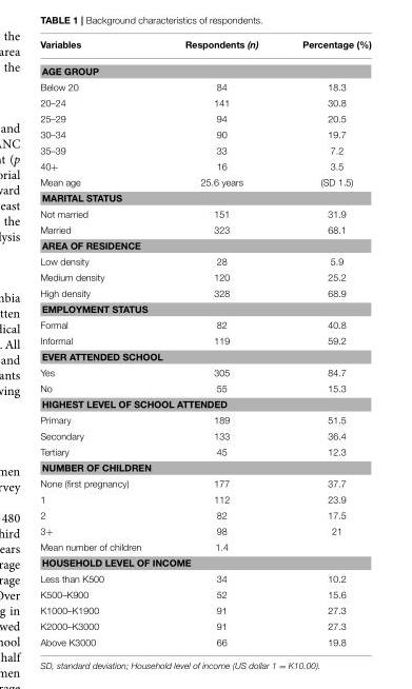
<table><thead><tr><td>Variables</td><td>Respondents (n)</td><td>Percentage (%)</td></tr></thead><tbody><tr><td colspan="3">AGE GROUP</td></tr><tr><td>Below 20</td><td>84</td><td>18.3</td></tr><tr><td>20–24</td><td>141</td><td>30.8</td></tr><tr><td>25–29</td><td>94</td><td>20.5</td></tr><tr><td>30–34</td><td>90</td><td>19.7</td></tr><tr><td>35–39</td><td>33</td><td>7.2</td></tr><tr><td>40+</td><td>16</td><td>3.5</td></tr><tr><td>Mean age</td><td>25.6 years</td><td>(SD 1.5)</td></tr><tr><td colspan="3">MARITAL STATUS</td></tr><tr><td>Not married</td><td>151</td><td>31.9</td></tr><tr><td>Married</td><td>323</td><td>68.1</td></tr><tr><td colspan="3">AREA OF RESIDENCE</td></tr><tr><td>Low density</td><td>28</td><td>5.9</td></tr><tr><td>Medium density</td><td>120</td><td>25.2</td></tr><tr><td>High density</td><td>328</td><td>68.9</td></tr><tr><td colspan="3">EMPLOYMENT STATUS</td></tr><tr><td>Formal</td><td>82</td><td>40.8</td></tr><tr><td>Informal</td><td>119</td><td>59.2</td></tr><tr><td colspan="3">EVER ATTENDED SCHOOL</td></tr><tr><td>Yes</td><td>305</td><td>84.7</td></tr><tr><td>No</td><td>55</td><td>15.3</td></tr><tr><td colspan="3">HIGHEST LEVEL OF SCHOOL ATTENDED</td></tr><tr><td>Primary</td><td>189</td><td>51.5</td></tr><tr><td>Secondary</td><td>133</td><td>36.4</td></tr><tr><td>Tertiary</td><td>45</td><td>12.3</td></tr><tr><td colspan="3">NUMBER OF CHILDREN</td></tr><tr><td>None (first pregnancy)</td><td>177</td><td>37.7</td></tr><tr><td>1</td><td>112</td><td>23.9</td></tr><tr><td>2</td><td>82</td><td>17.5</td></tr><tr><td>3+</td><td>98</td><td>21</td></tr><tr><td>Mean number of children</td><td>1.4</td><td></td></tr><tr><td colspan="3">HOUSEHOLD LEVEL OF INCOME</td></tr><tr><td>Less than K500</td><td>34</td><td>10.2</td></tr><tr><td>K500–K900</td><td>52</td><td>15.6</td></tr><tr><td>K1000–K1900</td><td>91</td><td>27.3</td></tr><tr><td>K2000–K3000</td><td>91</td><td>27.3</td></tr><tr><td>Above K3000</td><td>66</td><td>19.8</td></tr></tbody></table>